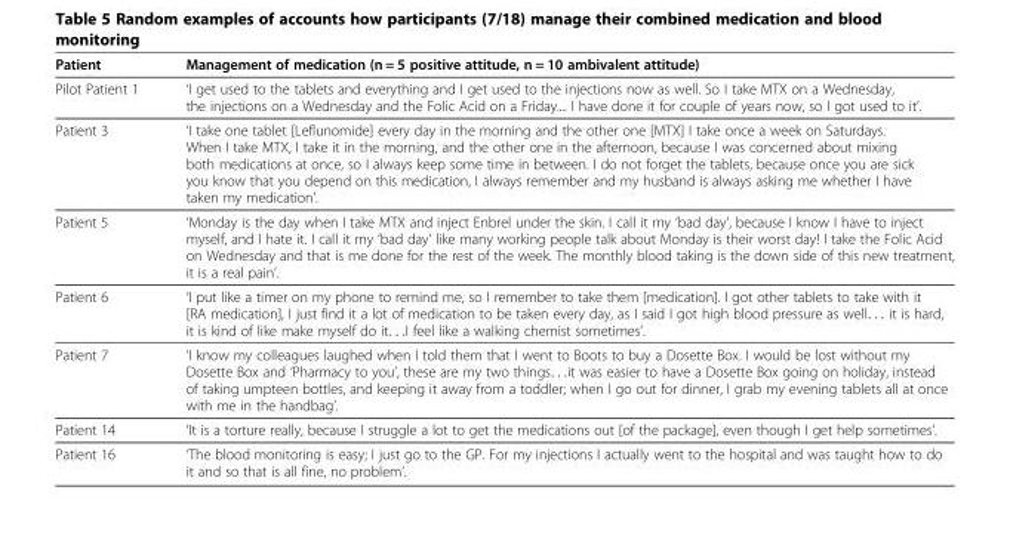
<table><thead><tr><td>Patient</td><td>Management of medication (n = 5 positive attitude, n = 10 ambivalent attitude)</td></tr></thead><tbody><tr><td>Pilot Patient 1</td><td>‘I get used to the tablets and everything and I get used to the injections now as well. So I take MTX on a Wednesday, the injections on a Wednesday and the Folic Acid on a Friday.... I have done it for couple of years now, so I got used to it’.</td></tr><tr><td>Patient 3</td><td>‘I take one tablet [Leflunomide] every day in the morning and the other one [MTX] I take once a week on Saturdays. When I take MTX, I take it in the morning, and the other one in the afternoon, because I was concerned about mixing both medications at once, so I always keep some time in between. I do not forget the tablets, because once you are sick you know that you depend on this medication, I always remember and my husband is always asking me whether I have taken my medication’.</td></tr><tr><td>Patient 5</td><td>‘Monday is the day when I take MTX and inject Enbrel under the skin. I call it my ‘bad day’, because I know I have to inject myself, and I hate it. I call it my ‘bad day’ like many working people talk about Monday is their worst day! I take the Folic Acid on Wednesday and that is me done for the rest of the week. The monthly blood taking is the down side of this new treatment, it is a real pain’.</td></tr><tr><td>Patient 6</td><td>‘I put like a timer on my phone to remind me, so I remember to take them [medication]. I got other tablets to take with it [RA medication], I just find it a lot of medication to be taken every day, as I said I got high blood pressure as well. . . it is hard, it is kind of like make myself do it. . .I feel like a walking chemist sometimes’.</td></tr><tr><td>Patient 7</td><td>‘I know my colleagues laughed when I told them that I went to Boots to buy a Dosette Box. I would be lost without my Dosette Box and ‘Pharmacy to you’, these are my two things. . .it was easier to have a Dosette Box going on holiday, instead of taking umpteen bottles, and keeping it away from a toddler; when I go out for dinner, I grab my evening tablets all at once with me in the handbag’.</td></tr><tr><td>Patient 14</td><td>‘It is a torture really, because I struggle a lot to get the medications out [of the package], even though I get help sometimes’.</td></tr><tr><td>Patient 16</td><td>‘The blood monitoring is easy; I just go to the GP. For my injections I actually went to the hospital and was taught how to do it and so that is all fine, no problem’.</td></tr></tbody></table>